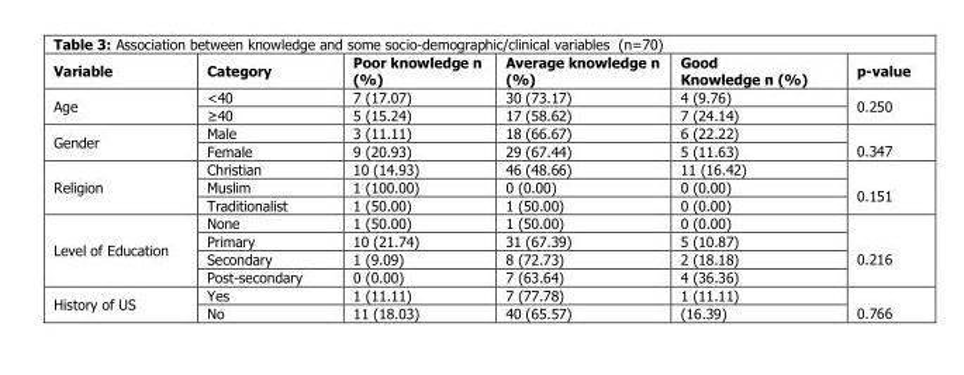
<table><thead><tr><td>Variable</td><td>Category</td><td>Poor knowledge n (%)</td><td>Average knowledge n (%)</td><td>Good Knowledge n (%)</td><td>p-value</td></tr></thead><tbody><tr><td rowspan="2">Age</td><td>˂40</td><td>7 (17.07)</td><td>30 (73.17)</td><td>4 (9.76)</td><td rowspan="2">0.250</td></tr><tr><td>≥40</td><td>5 (15.24)</td><td>17 (58.62)</td><td>7 (24.14)</td></tr><tr><td rowspan="2">Gender</td><td>Male</td><td>3 (11.11)</td><td>18 (66.67)</td><td>6 (22.22)</td><td rowspan="2">0.347</td></tr><tr><td>Female</td><td>9 (20.93)</td><td>29 (67.44)</td><td>5 (11.63)</td></tr><tr><td rowspan="3">Religion</td><td>Christian</td><td>10 (14.93)</td><td>46 (48.66)</td><td>11 (16.42)</td><td rowspan="3">0.151</td></tr><tr><td>Muslim</td><td>1 (100.00)</td><td>0 (0.00)</td><td>0 (0.00)</td></tr><tr><td>Traditionalist</td><td>1 (50.00)</td><td>1 (50.00)</td><td>0 (0.00)</td></tr><tr><td rowspan="4">Level of Education</td><td>None</td><td>1 (50.00)</td><td>1 (50.00)</td><td>0 (0.00)</td><td rowspan="4">0.216</td></tr><tr><td>Primary</td><td>10 (21.74)</td><td>31 (67.39)</td><td>5 (10.87)</td></tr><tr><td>Secondary</td><td>1 (9.09)</td><td>8 (72.73)</td><td>2 (18.18)</td></tr><tr><td>Post-secondary</td><td>0 (0.00)</td><td>7 (63.64)</td><td>4 (36.36)</td></tr><tr><td rowspan="2">History of US</td><td>Yes</td><td>1 (11.11)</td><td>7 (77.78)</td><td>1 (11.11)</td><td rowspan="2">0.766</td></tr><tr><td>No</td><td>11 (18.03)</td><td>40 (65.57)</td><td>(16.39)</td></tr></tbody></table>